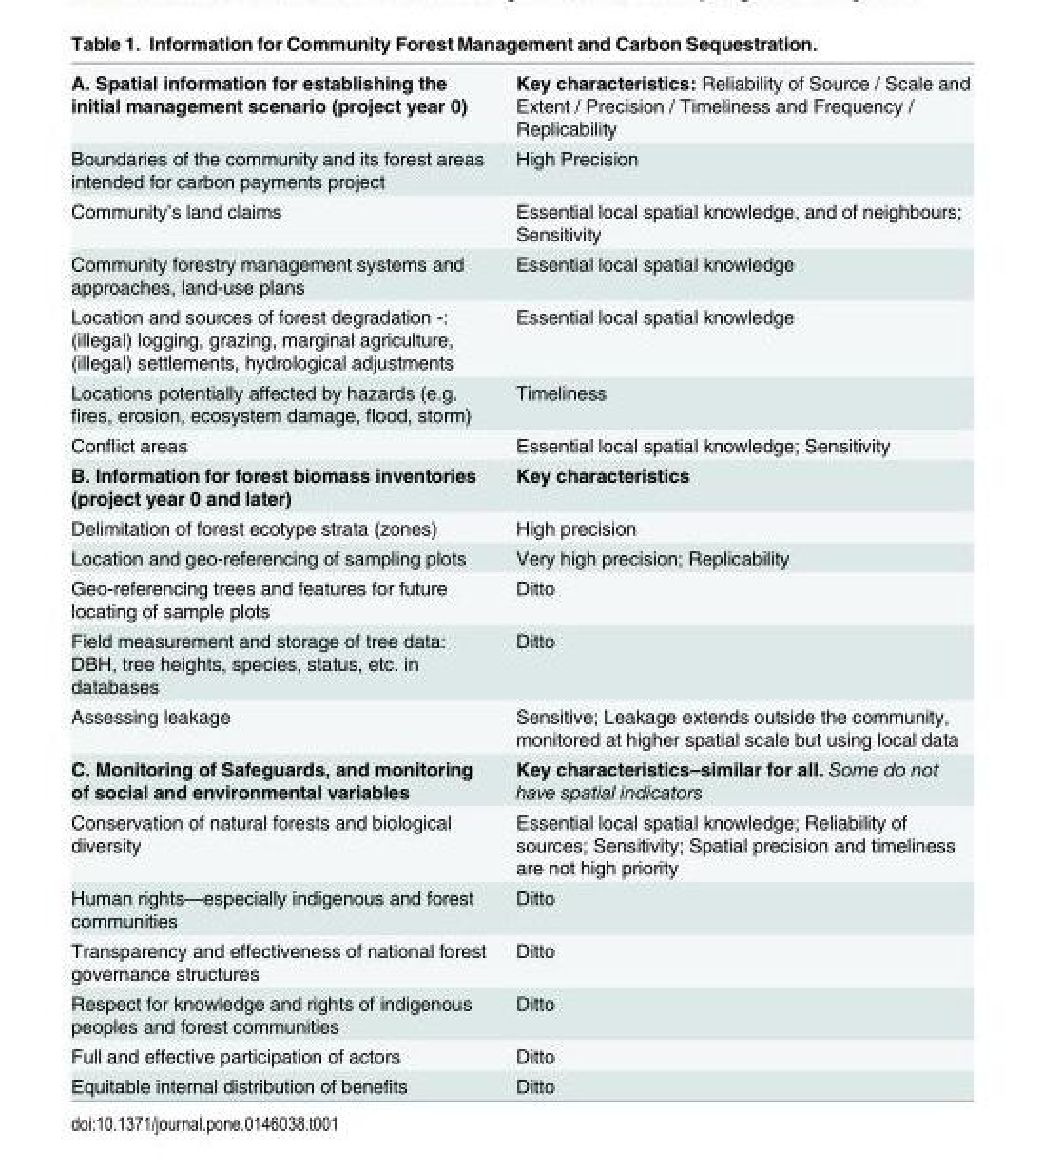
<table><tbody><tr><td>A. Spatial information for establishing the initial management scenario (project year 0)</td><td>Key characteristics: Reliability of Source / Scale and Extent / Precision / Timeliness and Frequency / Replicability</td></tr><tr><td>Boundaries of the community and its forest areas intended for carbon payments project</td><td>High Precision</td></tr><tr><td>Community’s land claims</td><td>Essential local spatial knowledge, and of neighbours; Sensitivity</td></tr><tr><td>Community forestry management systems and approaches, land-use plans</td><td>Essential local spatial knowledge</td></tr><tr><td>Location and sources of forest degradation -: (illegal) logging, grazing, marginal agriculture, (illegal) settlements, hydrological adjustments</td><td>Essential local spatial knowledge</td></tr><tr><td>Locations potentially affected by hazards (e.g. fires, erosion, ecosystem damage, flood, storm)</td><td>Timeliness</td></tr><tr><td>Conflict areas</td><td>Essential local spatial knowledge; Sensitivity</td></tr><tr><td>B. Information for forest biomass inventories (project year 0 and later)</td><td>Key characteristics</td></tr><tr><td>Delimitation of forest ecotype strata (zones)</td><td>High precision</td></tr><tr><td>Location and geo-referencing of sampling plots</td><td>Very high precision; Replicability</td></tr><tr><td>Geo-referencing trees and features for future locating of sample plots</td><td>Ditto</td></tr><tr><td>Field measurement and storage of tree data: DBH, tree heights, species, status, etc. in databases</td><td>Ditto</td></tr><tr><td>Assessing leakage</td><td>Sensitive; Leakage extends outside the community, monitored at higher spatial scale but using local data</td></tr><tr><td>C. Monitoring of Safeguards, and monitoring of social and environmental variables</td><td>Key characteristics–similar for all. Some do not have spatial indicators</td></tr><tr><td>Conservation of natural forests and biological diversity</td><td>Essential local spatial knowledge; Reliability of sources; Sensitivity; Spatial precision and timeliness are not high priority</td></tr><tr><td>Human rights—especially indigenous and forest communities</td><td>Ditto</td></tr><tr><td>Transparency and effectiveness of national forest governance structures</td><td>Ditto</td></tr><tr><td>Respect for knowledge and rights of indigenous peoples and forest communities</td><td>Ditto</td></tr><tr><td>Full and effective participation of actors</td><td>Ditto</td></tr><tr><td>Equitable internal distribution of benefits</td><td>Ditto</td></tr></tbody></table>